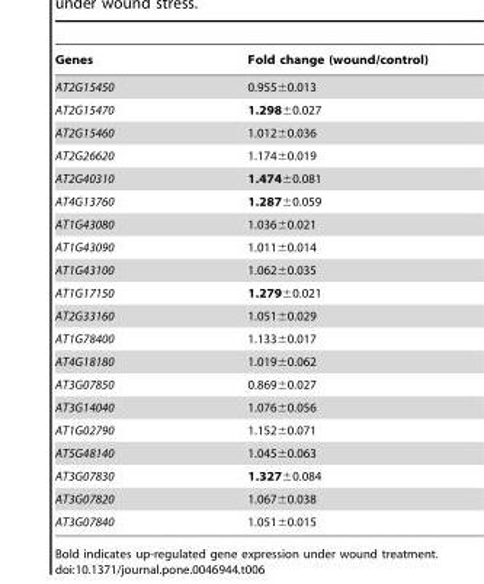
<table><thead><tr><td>Genes</td><td>Fold change (wound/control)</td></tr></thead><tbody><tr><td>AT2G15450</td><td>0.955±0.013</td></tr><tr><td>AT2G15470</td><td>1.298±0.027</td></tr><tr><td>AT2G15460</td><td>1.012±0.036</td></tr><tr><td>AT2G26620</td><td>1.174±0.019</td></tr><tr><td>AT2G40310</td><td>1.474±0.081</td></tr><tr><td>AT4G13760</td><td>1.287±0.059</td></tr><tr><td>AT1G43080</td><td>1.036±0.021</td></tr><tr><td>AT1G43090</td><td>1.011±0.014</td></tr><tr><td>AT1G43100</td><td>1.062±0.035</td></tr><tr><td>AT1G17150</td><td>1.279±0.021</td></tr><tr><td>AT2G33160</td><td>1.051±0.029</td></tr><tr><td>AT1G78400</td><td>1.133±0.017</td></tr><tr><td>AT4G18180</td><td>1.019±0.062</td></tr><tr><td>AT3G07850</td><td>0.869±0.027</td></tr><tr><td>AT3G14040</td><td>1.076±0.056</td></tr><tr><td>AT1G02790</td><td>1.152±0.071</td></tr><tr><td>AT5G48140</td><td>1.045±0.063</td></tr><tr><td>AT3G07830</td><td>1.327±0.084</td></tr><tr><td>AT3G07820</td><td>1.067±0.038</td></tr><tr><td>AT3G07840</td><td>1.051±0.015</td></tr></tbody></table>